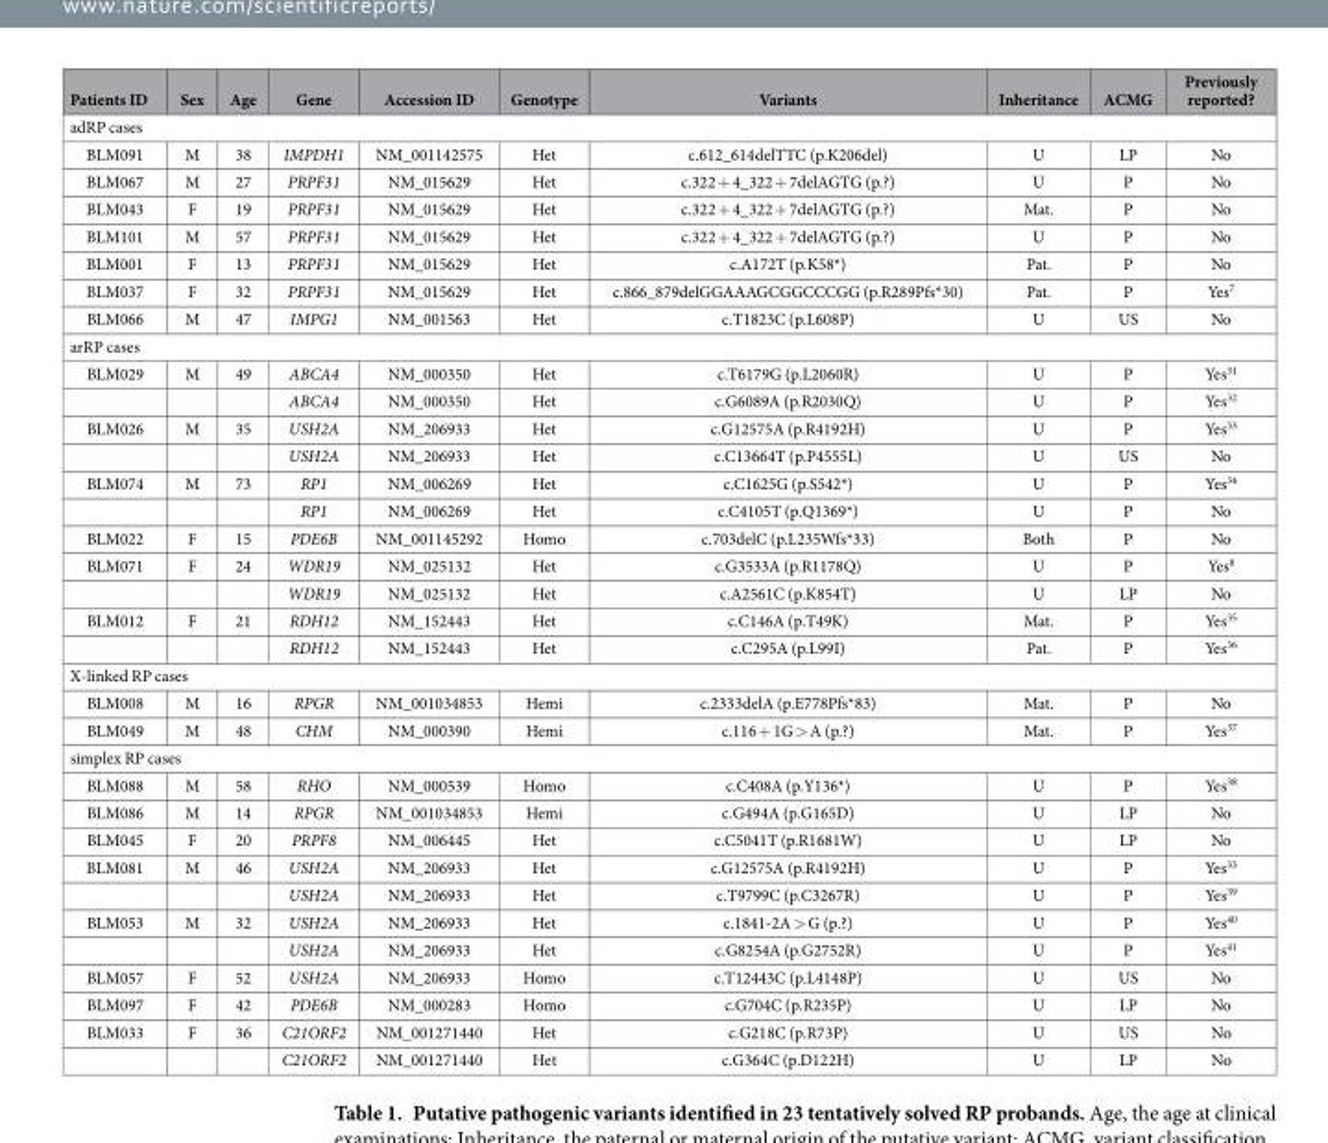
<table><thead><tr><td>Patients ID</td><td>Sex</td><td>Age</td><td>Gene</td><td>Accession ID</td><td>Genotype</td><td>Variants</td><td>Inheritance</td><td>ACMG</td><td>Previously reported?</td></tr></thead><tbody><tr><td colspan="10">adRP cases</td></tr><tr><td>BLM091</td><td>M</td><td>38</td><td>IMPDH1</td><td>NM_001142575</td><td>Het</td><td>c.612_614delTTC (p.K206del)</td><td>U</td><td>LP</td><td>No</td></tr><tr><td>BLM067</td><td>M</td><td>27</td><td>PRPF31</td><td>NM_015629</td><td>Het</td><td>c.322 + 4_322 + 7delAGTG (p.?)</td><td>U</td><td>P</td><td>No</td></tr><tr><td>BLM043</td><td>F</td><td>19</td><td>PRPF31</td><td>NM_015629</td><td>Het</td><td>c.322 + 4_322 + 7delAGTG (p.?)</td><td>Mat.</td><td>P</td><td>No</td></tr><tr><td>BLM101</td><td>M</td><td>57</td><td>PRPF31</td><td>NM_015629</td><td>Het</td><td>c.322 + 4_322 + 7delAGTG (p.?)</td><td>U</td><td>P</td><td>No</td></tr><tr><td>BLM001</td><td>F</td><td>13</td><td>PRPF31</td><td>NM_015629</td><td>Het</td><td>c.A172T (p.K58*)</td><td>Pat.</td><td>P</td><td>No</td></tr><tr><td>BLM037</td><td>F</td><td>32</td><td>PRPF31</td><td>NM_015629</td><td>Het</td><td>c.866_879delGGAAAGCGGCCCGG (p.R289Pfs*30)</td><td>Pat.</td><td>P</td><td>Yes<sup>7</sup></td></tr><tr><td>BLM066</td><td>M</td><td>47</td><td>IMPG1</td><td>NM_001563</td><td>Het</td><td>c.T1823C (p.L608P)</td><td>U</td><td>US</td><td>No</td></tr><tr><td colspan="10">arRP cases</td></tr><tr><td rowspan="2">BLM029</td><td>M</td><td>49</td><td>ABCA4</td><td>NM_000350</td><td>Het</td><td>c.T6179G (p.L2060R)</td><td>U</td><td>P</td><td>Yes<sup>31</sup></td></tr><tr><td></td><td></td><td>ABCA4</td><td>NM_000350</td><td>Het</td><td>c.G6089A (p.R2030Q)</td><td>U</td><td>P</td><td>Yes<sup>32</sup></td></tr><tr><td rowspan="2">BLM026</td><td>M</td><td>35</td><td>USH2A</td><td>NM_206933</td><td>Het</td><td>c.G12575A (p.R4192H)</td><td>U</td><td>P</td><td>Yes<sup>33</sup></td></tr><tr><td></td><td></td><td>USH2A</td><td>NM_206933</td><td>Het</td><td>c.C13664T (p.P4555L)</td><td>U</td><td>US</td><td>No</td></tr><tr><td rowspan="2">BLM074</td><td>M</td><td>73</td><td>RP1</td><td>NM_006269</td><td>Het</td><td>c.C1625G (p.S542*)</td><td>U</td><td>P</td><td>Yes<sup>34</sup></td></tr><tr><td></td><td></td><td>RP1</td><td>NM_006269</td><td>Het</td><td>c.C4105T (p.Q1369*)</td><td>U</td><td>P</td><td>No</td></tr><tr><td>BLM022</td><td>F</td><td>15</td><td>PDE6B</td><td>NM_001145292</td><td>Homo</td><td>c.703delC (p.L235Wfs*33)</td><td>Both</td><td>P</td><td>No</td></tr><tr><td rowspan="2">BLM071</td><td>F</td><td>24</td><td>WDR19</td><td>NM_025132</td><td>Het</td><td>c.G3533A (p.R1178Q)</td><td>U</td><td>P</td><td>Yes<sup>8</sup></td></tr><tr><td></td><td></td><td>WDR19</td><td>NM_025132</td><td>Het</td><td>c.A2561C (p.K854T)</td><td>U</td><td>LP</td><td>No</td></tr><tr><td rowspan="2">BLM012</td><td>F</td><td>21</td><td>RDH12</td><td>NM_152443</td><td>Het</td><td>c.C146A (p.T49K)</td><td>Mat.</td><td>P</td><td>Yes<sup>35</sup></td></tr><tr><td></td><td></td><td>RDH12</td><td>NM_152443</td><td>Het</td><td>c.C295A (p.L99I)</td><td>Pat.</td><td>P</td><td>Yes<sup>36</sup></td></tr><tr><td colspan="10">X-linked RP cases</td></tr><tr><td>BLM008</td><td>M</td><td>16</td><td>RPGR</td><td>NM_001034853</td><td>Hemi</td><td>c.2333delA (p.E778Pfs*83)</td><td>Mat.</td><td>P</td><td>No</td></tr><tr><td>BLM049</td><td>M</td><td>48</td><td>CHM</td><td>NM_000390</td><td>Hemi</td><td>c.116 + 1G &gt; A (p.?)</td><td>Mat.</td><td>P</td><td>Yes<sup>37</sup></td></tr><tr><td colspan="10">simplex RP cases</td></tr><tr><td>BLM088</td><td>M</td><td>58</td><td>RHO</td><td>NM_000539</td><td>Homo</td><td>c.C408A (p.Y136*)</td><td>U</td><td>P</td><td>Yes<sup>38</sup></td></tr><tr><td>BLM086</td><td>M</td><td>14</td><td>RPGR</td><td>NM_001034853</td><td>Hemi</td><td>c.G494A (p.G165D)</td><td>U</td><td>LP</td><td>No</td></tr><tr><td>BLM045</td><td>F</td><td>20</td><td>PRPF8</td><td>NM_006445</td><td>Het</td><td>c.C5041T (p.R1681W)</td><td>U</td><td>LP</td><td>No</td></tr><tr><td rowspan="2">BLM081</td><td>M</td><td>46</td><td>USH2A</td><td>NM_206933</td><td>Het</td><td>c.G12575A (p.R4192H)</td><td>U</td><td>P</td><td>Yes<sup>33</sup></td></tr><tr><td></td><td></td><td>USH2A</td><td>NM_206933</td><td>Het</td><td>c.T9799C (p.C3267R)</td><td>U</td><td>P</td><td>Yes<sup>39</sup></td></tr><tr><td rowspan="2">BLM053</td><td>M</td><td>32</td><td>USH2A</td><td>NM_206933</td><td>Het</td><td>c.1841-2A &gt; G (p.?)</td><td>U</td><td>P</td><td>Yes<sup>40</sup></td></tr><tr><td></td><td></td><td>USH2A</td><td>NM_206933</td><td>Het</td><td>c.G8254A (p.G2752R)</td><td>U</td><td>P</td><td>Yes<sup>41</sup></td></tr><tr><td>BLM057</td><td>F</td><td>52</td><td>USH2A</td><td>NM_206933</td><td>Homo</td><td>c.T12443C (p.L4148P)</td><td>U</td><td>US</td><td>No</td></tr><tr><td>BLM097</td><td>F</td><td>42</td><td>PDE6B</td><td>NM_000283</td><td>Homo</td><td>c.G704C (p.R235P)</td><td>U</td><td>LP</td><td>No</td></tr><tr><td rowspan="2">BLM033</td><td>F</td><td>36</td><td>C21ORF2</td><td>NM_001271440</td><td>Het</td><td>c.G218C (p.R73P)</td><td>U</td><td>US</td><td>No</td></tr><tr><td></td><td></td><td>C21ORF2</td><td>NM_001271440</td><td>Het</td><td>c.G364C (p.D122H)</td><td>U</td><td>LP</td><td>No</td></tr></tbody></table>